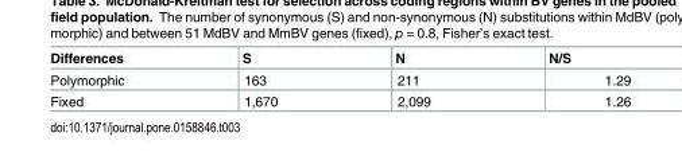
<table><thead><tr><td>Differences</td><td>S</td><td>N</td><td>N/S</td></tr></thead><tbody><tr><td>Polymorphic</td><td>163</td><td>211</td><td>1.29</td></tr><tr><td>Fixed</td><td>1,670</td><td>2,099</td><td>1.26</td></tr></tbody></table>